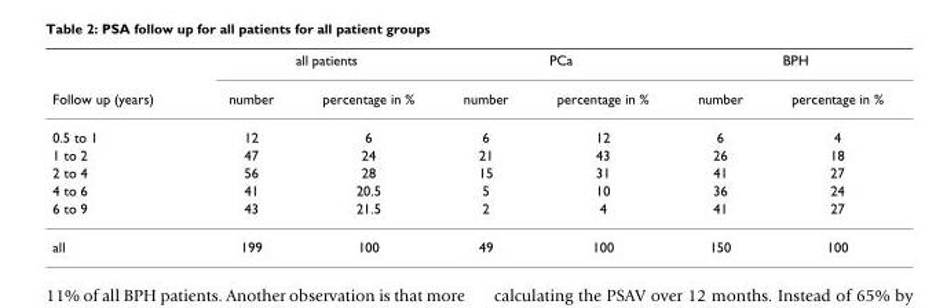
<table><thead><tr><td rowspan="2">Follow up (years)</td><td colspan="2">all patients</td><td colspan="2">PCa</td><td colspan="2">BPH</td></tr><tr><td>number</td><td>percentage in %</td><td>number</td><td>percentage in %</td><td>number</td><td>percentage in %</td></tr></thead><tbody><tr><td>0.5 to 1</td><td>12</td><td>6</td><td>6</td><td>12</td><td>6</td><td>4</td></tr><tr><td>1 to 2</td><td>47</td><td>24</td><td>21</td><td>43</td><td>26</td><td>18</td></tr><tr><td>2 to 4</td><td>56</td><td>28</td><td>15</td><td>31</td><td>41</td><td>27</td></tr><tr><td>4 to 6</td><td>41</td><td>20.5</td><td>5</td><td>10</td><td>36</td><td>24</td></tr><tr><td>6 to 9</td><td>43</td><td>21.5</td><td>2</td><td>4</td><td>41</td><td>27</td></tr><tr><td>all</td><td>199</td><td>100</td><td>49</td><td>100</td><td>150</td><td>100</td></tr></tbody></table>